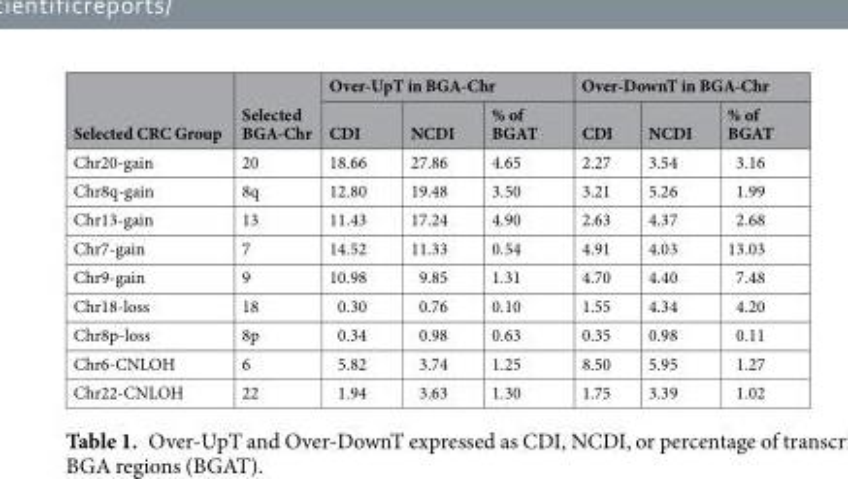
<table><thead><tr><td rowspan="2">Selected CRC Group</td><td rowspan="2">Selected BGA-Chr</td><td colspan="3">Over-UpT in BGA-Chr</td><td colspan="3">Over-DownT in BGA-Chr</td></tr><tr><td>CDI</td><td>NCDI</td><td>% of BGAT</td><td>CDI</td><td>NCDI</td><td>% of BGAT</td></tr></thead><tbody><tr><td>Chr20-gain</td><td>20</td><td>18.66</td><td>27.86</td><td>4.65</td><td>2.27</td><td>3.54</td><td>3.16</td></tr><tr><td>Chr8q-gain</td><td>8q</td><td>12.80</td><td>19.48</td><td>3.50</td><td>3.21</td><td>5.26</td><td>1.99</td></tr><tr><td>Chr13-gain</td><td>13</td><td>11.43</td><td>17.24</td><td>4.90</td><td>2.63</td><td>4.37</td><td>2.68</td></tr><tr><td>Chr7-gain</td><td>7</td><td>14.52</td><td>11.33</td><td>0.54</td><td>4.91</td><td>4.03</td><td>13.03</td></tr><tr><td>Chr9-gain</td><td>9</td><td>10.98</td><td>9.85</td><td>1.31</td><td>4.70</td><td>4.40</td><td>7.48</td></tr><tr><td>Chr18-loss</td><td>18</td><td>0.30</td><td>0.76</td><td>0.10</td><td>1.55</td><td>4.34</td><td>4.20</td></tr><tr><td>Chr8p-loss</td><td>8p</td><td>0.34</td><td>0.98</td><td>0.63</td><td>0.35</td><td>0.98</td><td>0.11</td></tr><tr><td>Chr6-CNLOH</td><td>6</td><td>5.82</td><td>3.74</td><td>1.25</td><td>8.50</td><td>5.95</td><td>1.27</td></tr><tr><td>Chr22-CNLOH</td><td>22</td><td>1.94</td><td>3.63</td><td>1.30</td><td>1.75</td><td>3.39</td><td>1.02</td></tr></tbody></table>